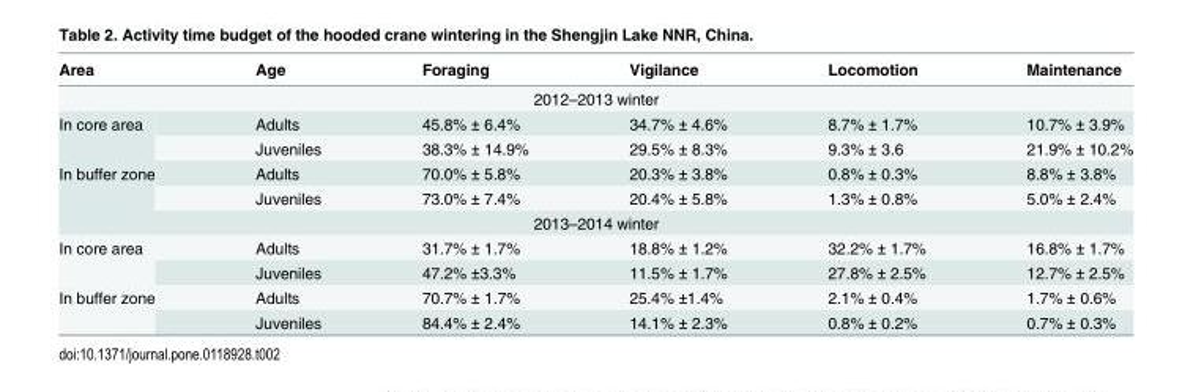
<table><thead><tr><td>Area</td><td>Age</td><td>Foraging</td><td>Vigilance</td><td>Locomotion</td><td>Maintenance</td></tr></thead><tbody><tr><td colspan="6">2012–2013 winter</td></tr><tr><td rowspan="2">In core area</td><td>Adults</td><td>45.8% ± 6.4%</td><td>34.7% ± 4.6%</td><td>8.7% ± 1.7%</td><td>10.7% ± 3.9%</td></tr><tr><td>Juveniles</td><td>38.3% ± 14.9%</td><td>29.5% ± 8.3%</td><td>9.3% ± 3.6</td><td>21.9% ± 10.2%</td></tr><tr><td rowspan="2">In buffer zone</td><td>Adults</td><td>70.0% ± 5.8%</td><td>20.3% ± 3.8%</td><td>0.8% ± 0.3%</td><td>8.8% ± 3.8%</td></tr><tr><td>Juveniles</td><td>73.0% ± 7.4%</td><td>20.4% ± 5.8%</td><td>1.3% ± 0.8%</td><td>5.0% ± 2.4%</td></tr><tr><td colspan="6">2013–2014 winter</td></tr><tr><td rowspan="2">In core area</td><td>Adults</td><td>31.7% ± 1.7%</td><td>18.8% ± 1.2%</td><td>32.2% ± 1.7%</td><td>16.8% ± 1.7%</td></tr><tr><td>Juveniles</td><td>47.2% ±3.3%</td><td>11.5% ± 1.7%</td><td>27.8% ± 2.5%</td><td>12.7% ± 2.5%</td></tr><tr><td rowspan="2">In buffer zone</td><td>Adults</td><td>70.7% ± 1.7%</td><td>25.4% ±1.4%</td><td>2.1% ± 0.4%</td><td>1.7% ± 0.6%</td></tr><tr><td>Juveniles</td><td>84.4% ± 2.4%</td><td>14.1% ± 2.3%</td><td>0.8% ± 0.2%</td><td>0.7% ± 0.3%</td></tr></tbody></table>